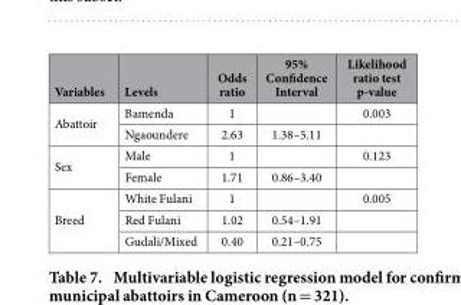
<table><thead><tr><td>Variables</td><td>Levels</td><td>Odds ratio</td><td>95% Confidence Interval</td><td>Likelihood ratio test p-value</td></tr></thead><tbody><tr><td rowspan="2">Abattoir</td><td>Bamenda</td><td>1</td><td></td><td>0.003</td></tr><tr><td>Ngaoundere</td><td>2.63</td><td>1.38–5.11</td><td></td></tr><tr><td rowspan="2">Sex</td><td>Male</td><td>1</td><td></td><td>0.123</td></tr><tr><td>Female</td><td>1.71</td><td>0.86–3.40</td><td></td></tr><tr><td rowspan="3">Breed</td><td>White Fulani</td><td>1</td><td></td><td>0.005</td></tr><tr><td>Red Fulani</td><td>1.02</td><td>0.54–1.91</td><td></td></tr><tr><td>Gudali/Mixed</td><td>0.40</td><td>0.21–0.75</td><td></td></tr></tbody></table>